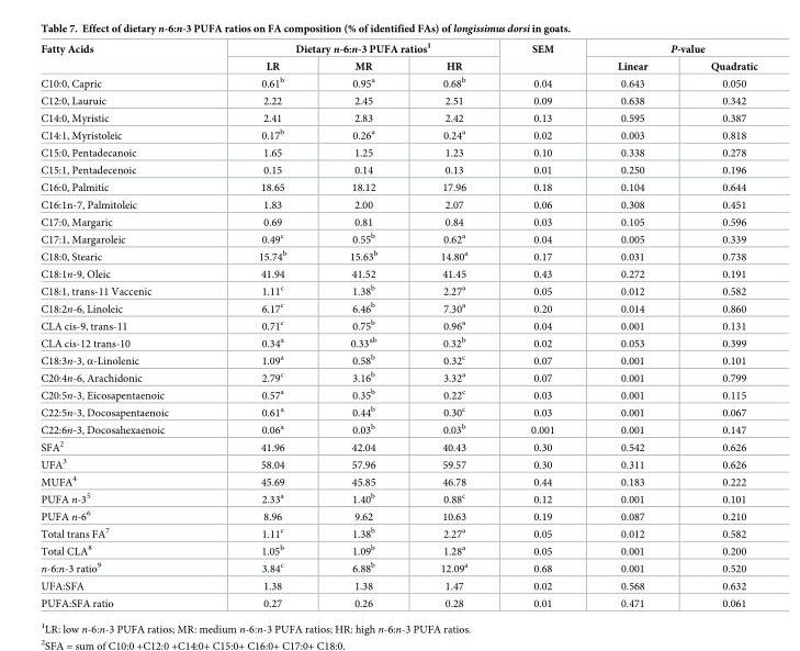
<table><thead><tr><td rowspan="2">Fatty Acids</td><td colspan="3">Dietary n-6:n-3 PUFA ratios<sup>1</sup></td><td rowspan="2">SEM</td><td colspan="2">P-value</td></tr><tr><td>LR</td><td>MR</td><td>HR</td><td>Linear</td><td>Quadratic</td></tr></thead><tbody><tr><td>C10:0, Capric</td><td>0.61<sup>b</sup></td><td>0.95<sup>a</sup></td><td>0.68<sup>b</sup></td><td>0.04</td><td>0.643</td><td>0.050</td></tr><tr><td>C12:0, Lauruic</td><td>2.22</td><td>2.45</td><td>2.51</td><td>0.09</td><td>0.638</td><td>0.342</td></tr><tr><td>C14:0, Myristic</td><td>2.41</td><td>2.83</td><td>2.42</td><td>0.13</td><td>0.595</td><td>0.387</td></tr><tr><td>C14:1, Myristoleic</td><td>0.17<sup>b</sup></td><td>0.26<sup>a</sup></td><td>0.24<sup>a</sup></td><td>0.02</td><td>0.003</td><td>0.818</td></tr><tr><td>C15:0, Pentadecanoic</td><td>1.65</td><td>1.25</td><td>1.23</td><td>0.10</td><td>0.338</td><td>0.278</td></tr><tr><td>C15:1, Pentadecenoic</td><td>0.15</td><td>0.14</td><td>0.13</td><td>0.01</td><td>0.250</td><td>0.196</td></tr><tr><td>C16:0, Palmitic</td><td>18.65</td><td>18.12</td><td>17.96</td><td>0.18</td><td>0.104</td><td>0.644</td></tr><tr><td>C16:1n-7, Palmitoleic</td><td>1.83</td><td>2.00</td><td>2.07</td><td>0.06</td><td>0.308</td><td>0.451</td></tr><tr><td>C17:0, Margaric</td><td>0.69</td><td>0.81</td><td>0.84</td><td>0.03</td><td>0.105</td><td>0.596</td></tr><tr><td>C17:1, Margaroleic</td><td>0.49<sup>c</sup></td><td>0.55<sup>b</sup></td><td>0.62<sup>a</sup></td><td>0.04</td><td>0.005</td><td>0.339</td></tr><tr><td>C18:0, Stearic</td><td>15.74<sup>b</sup></td><td>15.63<sup>b</sup></td><td>14.80<sup>a</sup></td><td>0.17</td><td>0.031</td><td>0.738</td></tr><tr><td>C18:1n-9, Oleic</td><td>41.94</td><td>41.52</td><td>41.45</td><td>0.43</td><td>0.272</td><td>0.191</td></tr><tr><td>C18:1, trans-11 Vaccenic</td><td>1.11<sup>c</sup></td><td>1.38<sup>b</sup></td><td>2.27<sup>a</sup></td><td>0.05</td><td>0.012</td><td>0.582</td></tr><tr><td>C18:2n-6, Linoleic</td><td>6.17<sup>c</sup></td><td>6.46<sup>b</sup></td><td>7.30<sup>a</sup></td><td>0.20</td><td>0.014</td><td>0.860</td></tr><tr><td>CLA cis-9, trans-11</td><td>0.71<sup>c</sup></td><td>0.75<sup>b</sup></td><td>0.96<sup>a</sup></td><td>0.04</td><td>0.001</td><td>0.131</td></tr><tr><td>CLA cis-12 trans-10</td><td>0.34<sup>a</sup></td><td>0.33<sup>ab</sup></td><td>0.32<sup>b</sup></td><td>0.02</td><td>0.053</td><td>0.399</td></tr><tr><td>C18:3n-3, α-Linolenic</td><td>1.09<sup>a</sup></td><td>0.58<sup>b</sup></td><td>0.32<sup>c</sup></td><td>0.07</td><td>0.001</td><td>0.101</td></tr><tr><td>C20:4n-6, Arachidonic</td><td>2.79<sup>c</sup></td><td>3.16<sup>b</sup></td><td>3.32<sup>a</sup></td><td>0.07</td><td>0.001</td><td>0.799</td></tr><tr><td>C20:5n-3, Eicosapentaenoic</td><td>0.57<sup>a</sup></td><td>0.35<sup>b</sup></td><td>0.22<sup>c</sup></td><td>0.03</td><td>0.001</td><td>0.115</td></tr><tr><td>C22:5n-3, Docosapentaenoic</td><td>0.61<sup>a</sup></td><td>0.44<sup>b</sup></td><td>0.30<sup>c</sup></td><td>0.03</td><td>0.001</td><td>0.067</td></tr><tr><td>C22:6n-3, Docosahexaenoic</td><td>0.06<sup>a</sup></td><td>0.03<sup>b</sup></td><td>0.03<sup>b</sup></td><td>0.001</td><td>0.001</td><td>0.147</td></tr><tr><td>SFA<sup>2</sup></td><td>41.96</td><td>42.04</td><td>40.43</td><td>0.30</td><td>0.542</td><td>0.626</td></tr><tr><td>UFA<sup>3</sup></td><td>58.04</td><td>57.96</td><td>59.57</td><td>0.30</td><td>0.311</td><td>0.626</td></tr><tr><td>MUFA<sup>4</sup></td><td>45.69</td><td>45.85</td><td>46.78</td><td>0.44</td><td>0.183</td><td>0.222</td></tr><tr><td>PUFA n-3<sup>5</sup></td><td>2.33<sup>a</sup></td><td>1.40<sup>b</sup></td><td>0.88<sup>c</sup></td><td>0.12</td><td>0.001</td><td>0.101</td></tr><tr><td>PUFA n-6<sup>6</sup></td><td>8.96</td><td>9.62</td><td>10.63</td><td>0.19</td><td>0.087</td><td>0.210</td></tr><tr><td>Total trans FA<sup>7</sup></td><td>1.11<sup>c</sup></td><td>1.38<sup>b</sup></td><td>2.27<sup>a</sup></td><td>0.05</td><td>0.012</td><td>0.582</td></tr><tr><td>Total CLA<sup>8</sup></td><td>1.05<sup>b</sup></td><td>1.09<sup>b</sup></td><td>1.28<sup>a</sup></td><td>0.05</td><td>0.001</td><td>0.200</td></tr><tr><td>n-6:n-3 ratio<sup>9</sup></td><td>3.84<sup>c</sup></td><td>6.88<sup>b</sup></td><td>12.09<sup>a</sup></td><td>0.68</td><td>0.001</td><td>0.520</td></tr><tr><td>UFA:SFA</td><td>1.38</td><td>1.38</td><td>1.47</td><td>0.02</td><td>0.568</td><td>0.632</td></tr><tr><td>PUFA:SFA ratio</td><td>0.27</td><td>0.26</td><td>0.28</td><td>0.01</td><td>0.471</td><td>0.061</td></tr></tbody></table>